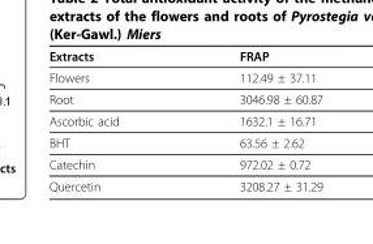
<table><thead><tr><td>Extracts</td><td>FRAP</td></tr></thead><tbody><tr><td>Flowers</td><td>112.49 ± 37.11</td></tr><tr><td>Root</td><td>3046.98 ± 60.87</td></tr><tr><td>Ascorbic acid</td><td>1632.1 ± 16.71</td></tr><tr><td>BHT</td><td>63.56 ± 2.62</td></tr><tr><td>Catechin</td><td>972.02 ± 0.72</td></tr><tr><td>Quercetin</td><td>3208.27 ± 31.29</td></tr></tbody></table>